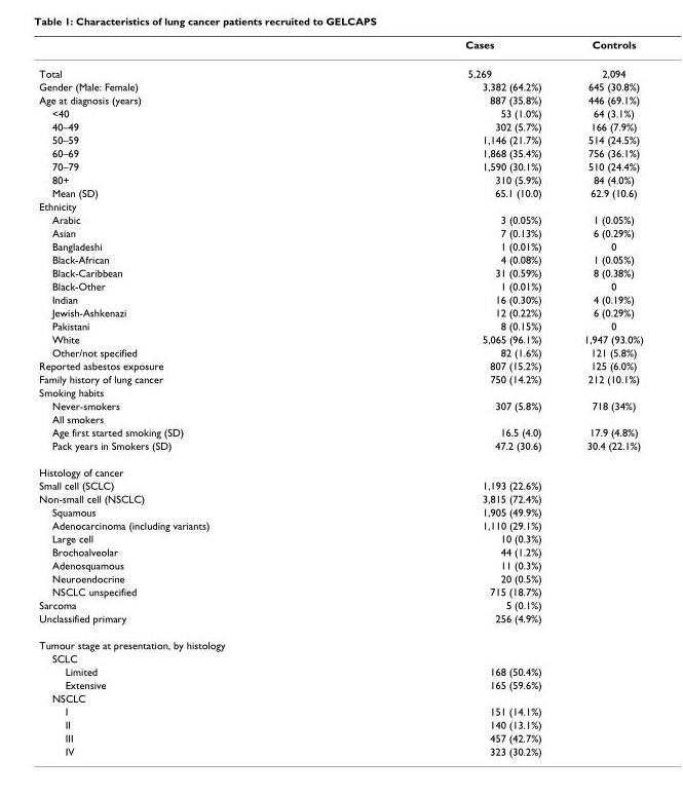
<table><thead><tr><td></td><td>Cases</td><td>Controls</td></tr></thead><tbody><tr><td>Total</td><td>5,269</td><td>2,094</td></tr><tr><td>Gender (Male: Female)</td><td>3,382 (64.2%)</td><td>645 (30.8%)</td></tr><tr><td>Age at diagnosis (years)</td><td>887 (35.8%)</td><td>446 (69.1%)</td></tr><tr><td>&lt;40</td><td>53 (1.0%)</td><td>64 (3.1%)</td></tr><tr><td>40–49</td><td>302 (5.7%)</td><td>166 (7.9%)</td></tr><tr><td>50–59</td><td>1,146 (21.7%)</td><td>514 (24.5%)</td></tr><tr><td>60–69</td><td>1,868 (35.4%)</td><td>756 (36.1%)</td></tr><tr><td>70–79</td><td>1,590 (30.1%)</td><td>510 (24.4%)</td></tr><tr><td>80+</td><td>310 (5.9%)</td><td>84 (4.0%)</td></tr><tr><td>Mean (SD)</td><td>65.1 (10.0)</td><td>62.9 (10.6)</td></tr><tr><td colspan="3">Ethnicity</td></tr><tr><td>Arabic</td><td>3 (0.05%)</td><td>1 (0.05%)</td></tr><tr><td>Asian</td><td>7 (0.13%)</td><td>6 (0.29%)</td></tr><tr><td>Bangladeshi</td><td>1 (0.01%)</td><td>0</td></tr><tr><td>Black-African</td><td>4 (0.08%)</td><td>1 (0.05%)</td></tr><tr><td>Black-Caribbean</td><td>31 (0.59%)</td><td>8 (0.38%)</td></tr><tr><td>Black-Other</td><td>1 (0.01%)</td><td>0</td></tr><tr><td>Indian</td><td>16 (0.30%)</td><td>4 (0.19%)</td></tr><tr><td>Jewish-Ashkenazi</td><td>12 (0.22%)</td><td>6 (0.29%)</td></tr><tr><td>Pakistani</td><td>8 (0.15%)</td><td>0</td></tr><tr><td>White</td><td>5,065 (96.1%)</td><td>1,947 (93.0%)</td></tr><tr><td>Other/not specified</td><td>82 (1.6%)</td><td>121 (5.8%)</td></tr><tr><td>Reported asbestos exposure</td><td>807 (15.2%)</td><td>125 (6.0%)</td></tr><tr><td>Family history of lung cancer</td><td>750 (14.2%)</td><td>212 (10.1%)</td></tr><tr><td colspan="3">Smoking habits</td></tr><tr><td>Never-smokers</td><td>307 (5.8%)</td><td>718 (34%)</td></tr><tr><td colspan="3">All smokers</td></tr><tr><td>Age first started smoking (SD)</td><td>16.5 (4.0)</td><td>17.9 (4.8%)</td></tr><tr><td>Pack years in Smokers (SD)</td><td>47.2 (30.6)</td><td>30.4 (22.1%)</td></tr><tr><td colspan="3">Histology of cancer</td></tr><tr><td>Small cell (SCLC)</td><td>1,193 (22.6%)</td><td></td></tr><tr><td>Non-small cell (NSCLC)</td><td>3,815 (72.4%)</td><td></td></tr><tr><td>Squamous</td><td>1,905 (49.9%)</td><td></td></tr><tr><td>Adenocarcinoma (including variants)</td><td>1,110 (29.1%)</td><td></td></tr><tr><td>Large cell</td><td>10 (0.3%)</td><td></td></tr><tr><td>Brochoalveolar</td><td>44 (1.2%)</td><td></td></tr><tr><td>Adenosquamous</td><td>11 (0.3%)</td><td></td></tr><tr><td>Neuroendocrine</td><td>20 (0.5%)</td><td></td></tr><tr><td>NSCLC unspecified</td><td>715 (18.7%)</td><td></td></tr><tr><td>Sarcoma</td><td>5 (0.1%)</td><td></td></tr><tr><td>Unclassified primary</td><td>256 (4.9%)</td><td></td></tr><tr><td colspan="3">Tumour stage at presentation, by histology</td></tr><tr><td colspan="3">SCLC</td></tr><tr><td>Limited</td><td>168 (50.4%)</td><td></td></tr><tr><td>Extensive</td><td>165 (59.6%)</td><td></td></tr><tr><td colspan="3">NSCLC</td></tr><tr><td>I</td><td>151 (14.1%)</td><td></td></tr><tr><td>II</td><td>140 (13.1%)</td><td></td></tr><tr><td>III</td><td>457 (42.7%)</td><td></td></tr><tr><td>IV</td><td>323 (30.2%)</td><td></td></tr></tbody></table>